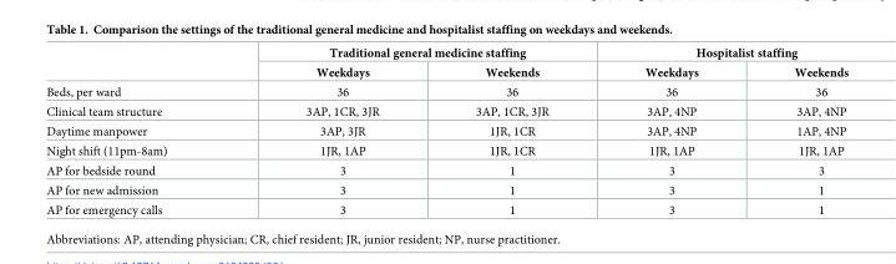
<table><thead><tr><td rowspan="2"></td><td colspan="2">Traditional general medicine staffing</td><td colspan="2">Hospitalist staffing</td></tr><tr><td>Weekdays</td><td>Weekends</td><td>Weekdays</td><td>Weekends</td></tr></thead><tbody><tr><td>Beds, per ward</td><td>36</td><td>36</td><td>36</td><td>36</td></tr><tr><td>Clinical team structure</td><td>3AP, 1CR, 3JR</td><td>3AP, 1CR, 3JR</td><td>3AP, 4NP</td><td>3AP, 4NP</td></tr><tr><td>Daytime manpower</td><td>3AP, 3JR</td><td>1JR, 1CR</td><td>3AP, 4NP</td><td>1AP, 4NP</td></tr><tr><td>Night shift (11pm-8am)</td><td>1JR, 1AP</td><td>1JR, 1CR</td><td>1JR, 1AP</td><td>1JR, 1AP</td></tr><tr><td>AP for bedside round</td><td>3</td><td>1</td><td>3</td><td>3</td></tr><tr><td>AP for new admission</td><td>3</td><td>1</td><td>3</td><td>1</td></tr><tr><td>AP for emergency calls</td><td>3</td><td>1</td><td>3</td><td>1</td></tr></tbody></table>